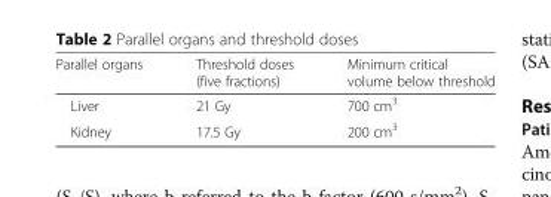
<table><thead><tr><td>Parallel organs</td><td>Threshold doses (five fractions)</td><td>Minimum critical volume below threshold</td></tr></thead><tbody><tr><td>Liver</td><td>21 Gy</td><td>700 cm3</td></tr><tr><td>Kidney</td><td>17.5 Gy</td><td>200 cm3</td></tr></tbody></table>